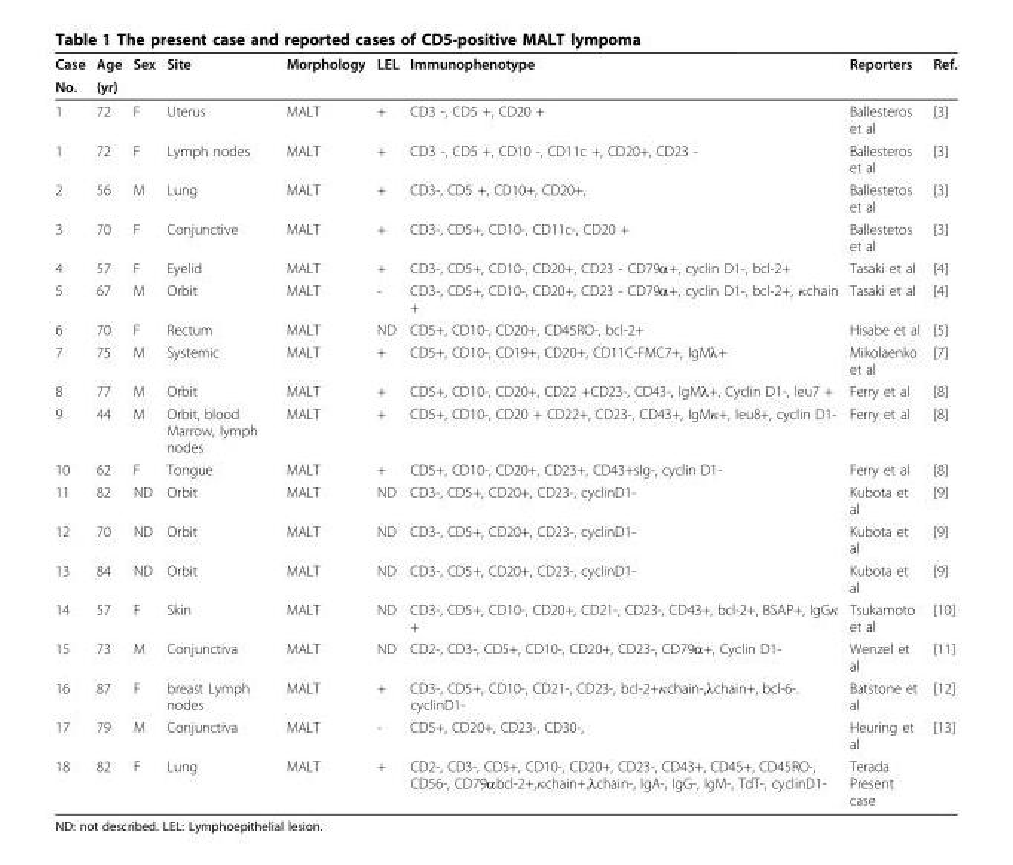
<table><thead><tr><td rowspan="2">Case No.</td><td rowspan="2">Age (yr)</td><td rowspan="2">Sex</td><td rowspan="2">Site</td><td rowspan="2">Morphology</td><td rowspan="2">LEL</td><td rowspan="2">Immunophenotype</td><td rowspan="2">Reporters</td><td rowspan="2">Ref.</td></tr><tr></tr></thead><tbody><tr><td>1</td><td>72</td><td>F</td><td>Uterus</td><td>MALT</td><td>+</td><td>CD3 -, CD5 +, CD20 +</td><td>Ballesteros et al</td><td>[3]</td></tr><tr><td>1</td><td>72</td><td>F</td><td>Lymph nodes</td><td>MALT</td><td>+</td><td>CD3 -, CD5 +, CD10 -, CD11c +, CD20+, CD23 -</td><td>Ballesteros et al</td><td>[3]</td></tr><tr><td>2</td><td>56</td><td>M</td><td>Lung</td><td>MALT</td><td>+</td><td>CD3-, CD5 +, CD10+, CD20+,</td><td>Ballestetos et al</td><td>[3]</td></tr><tr><td>3</td><td>70</td><td>F</td><td>Conjunctive</td><td>MALT</td><td>+</td><td>CD3-, CD5+, CD10-, CD11c-, CD20 +</td><td>Ballestetos et al</td><td>[3]</td></tr><tr><td>4</td><td>57</td><td>F</td><td>Eyelid</td><td>MALT</td><td>+</td><td>CD3-, CD5+, CD10-, CD20+, CD23 - CD79α+, cyclin D1-, bcl-2+</td><td>Tasaki et al</td><td>[4]</td></tr><tr><td>5</td><td>67</td><td>M</td><td>Orbit</td><td>MALT</td><td>-</td><td>CD3-, CD5+, CD10-, CD20+, CD23 - CD79α+, cyclin D1-, bcl-2+, κchain +</td><td>Tasaki et al</td><td>[4]</td></tr><tr><td>6</td><td>70</td><td>F</td><td>Rectum</td><td>MALT</td><td>ND</td><td>CD5+, CD10-, CD20+, CD45RO-, bcl-2+</td><td>Hisabe et al</td><td>[5]</td></tr><tr><td>7</td><td>75</td><td>M</td><td>Systemic</td><td>MALT</td><td>+</td><td>CD5+, CD10-, CD19+, CD20+, CD11C-FMC7+, IgMλ+</td><td>Mikolaenko et al</td><td>[7]</td></tr><tr><td>8</td><td>77</td><td>M</td><td>Orbit</td><td>MALT</td><td>+</td><td>CD5+, CD10-, CD20+, CD22 +CD23-, CD43-, IgMλ+, Cyclin D1-, leu7 +</td><td>Ferry et al</td><td>[8]</td></tr><tr><td>9</td><td>44</td><td>M</td><td>Orbit, blood Marrow, lymph nodes</td><td>MALT</td><td>+</td><td>CD5+, CD10-, CD20 + CD22+, CD23-, CD43+, IgMκ+, leu8+, cyclin D1-</td><td>Ferry et al</td><td>[8]</td></tr><tr><td>10</td><td>62</td><td>F</td><td>Tongue</td><td>MALT</td><td>+</td><td>CD5+, CD10-, CD20+, CD23+, CD43+sIg-, cyclin D1-</td><td>Ferry et al</td><td>[8]</td></tr><tr><td>11</td><td>82</td><td>ND</td><td>Orbit</td><td>MALT</td><td>ND</td><td>CD3-, CD5+, CD20+, CD23-, cyclinD1-</td><td>Kubota et al</td><td>[9]</td></tr><tr><td>12</td><td>70</td><td>ND</td><td>Orbit</td><td>MALT</td><td>ND</td><td>CD3-, CD5+, CD20+, CD23-, cyclinD1-</td><td>Kubota et al</td><td>[9]</td></tr><tr><td>13</td><td>84</td><td>ND</td><td>Orbit</td><td>MALT</td><td>ND</td><td>CD3-, CD5+, CD20+, CD23-, cyclinD1-</td><td>Kubota et al</td><td>[9]</td></tr><tr><td>14</td><td>57</td><td>F</td><td>Skin</td><td>MALT</td><td>ND</td><td>CD3-, CD5+, CD10-, CD20+, CD21-, CD23-, CD43+, bcl-2+, BSAP+, IgGκ +</td><td>Tsukamoto et al</td><td>[10]</td></tr><tr><td>15</td><td>73</td><td>M</td><td>Conjunctiva</td><td>MALT</td><td>ND</td><td>CD2-, CD3-, CD5+, CD10-, CD20+, CD23-, CD79α+, Cyclin D1-</td><td>Wenzel et al</td><td>[11]</td></tr><tr><td>16</td><td>87</td><td>F</td><td>breast Lymph nodes</td><td>MALT</td><td>+</td><td>CD3-, CD5+, CD10-, CD21-, CD23-, bcl-2+κchain-,λchain+, bcl-6-. cyclinD1-</td><td>Batstone et al</td><td>[12]</td></tr><tr><td>17</td><td>79</td><td>M</td><td>Conjunctiva</td><td>MALT</td><td>-</td><td>CD5+, CD20+, CD23-, CD30-,</td><td>Heuring et al</td><td>[13]</td></tr><tr><td>18</td><td>82</td><td>F</td><td>Lung</td><td>MALT</td><td>+</td><td>CD2-, CD3-, CD5+, CD10-, CD20+, CD23-, CD43+, CD45+, CD45RO-, CD56-, CD79αbcl-2+,κchain+,λchain-, IgA-, IgG-, IgM-, TdT-, cyclinD1-</td><td>Terada Present case</td><td></td></tr></tbody></table>